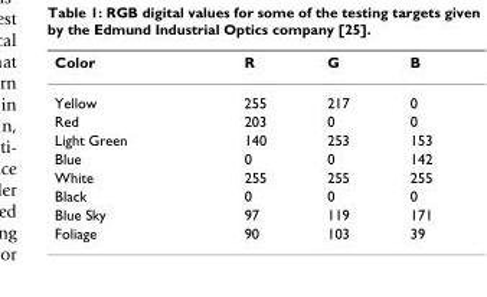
<table><thead><tr><td>Color</td><td>R</td><td>G</td><td>B</td></tr></thead><tbody><tr><td>Yellow</td><td>255</td><td>217</td><td>0</td></tr><tr><td>Red</td><td>203</td><td>0</td><td>0</td></tr><tr><td>Light Green</td><td>140</td><td>253</td><td>153</td></tr><tr><td>Blue</td><td>0</td><td>0</td><td>142</td></tr><tr><td>White</td><td>255</td><td>255</td><td>255</td></tr><tr><td>Black</td><td>0</td><td>0</td><td>0</td></tr><tr><td>Blue Sky</td><td>97</td><td>119</td><td>171</td></tr><tr><td>Foliage</td><td>90</td><td>103</td><td>39</td></tr></tbody></table>